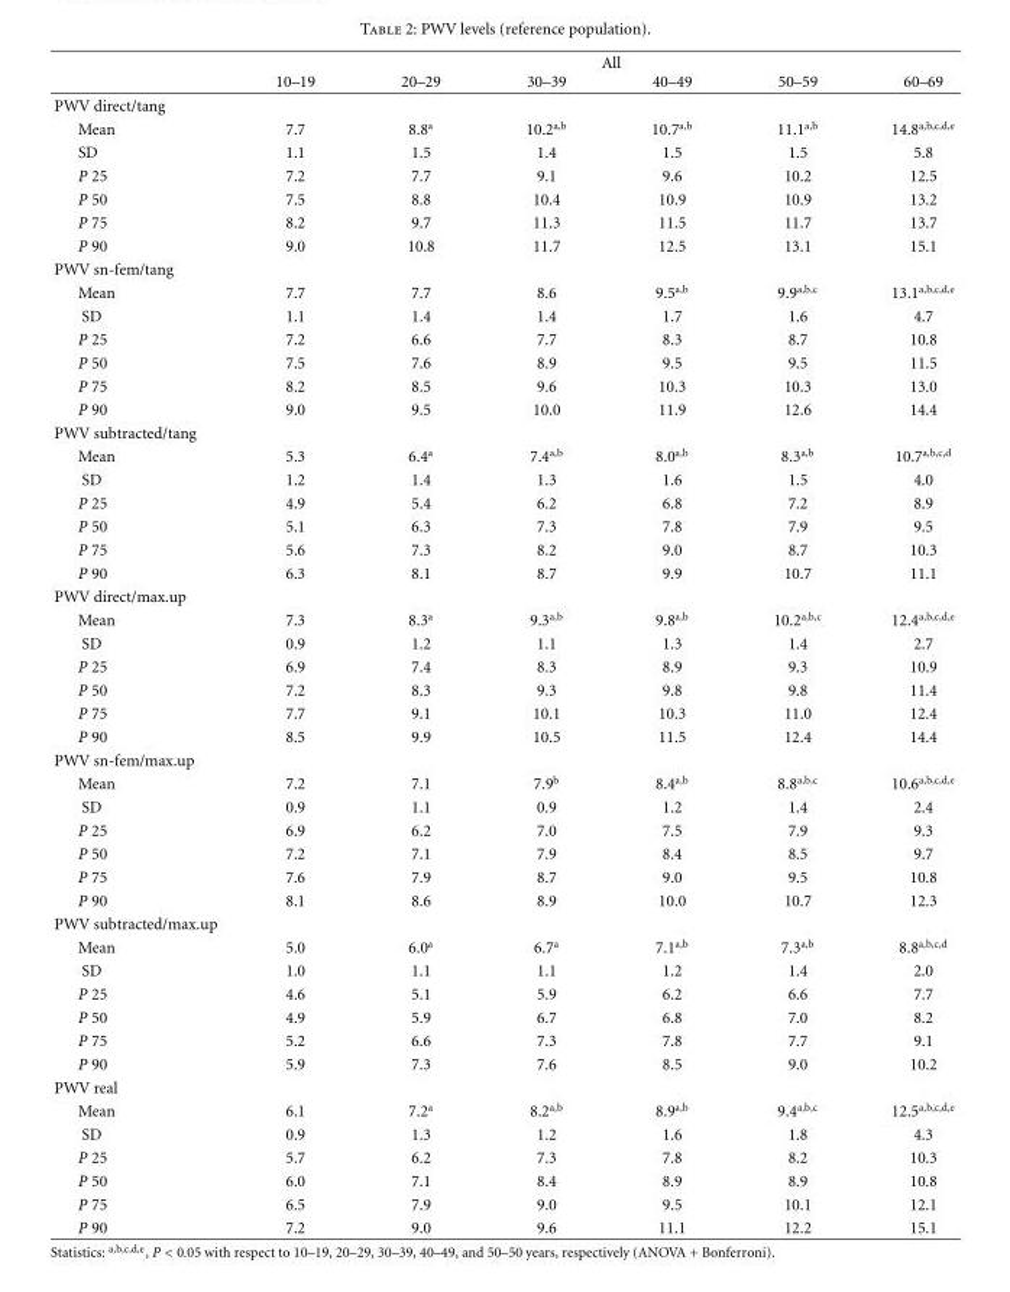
<table><thead><tr><td rowspan="2"></td><td colspan="6">All</td></tr><tr><td>10–19</td><td>20–29</td><td>30–39</td><td>40–49</td><td>50–59</td><td>60–69</td></tr></thead><tbody><tr><td colspan="7">PWV direct/tang</td></tr><tr><td>Mean</td><td>7.7</td><td>8.8<sup>a</sup></td><td>10.2<sup>a,b</sup></td><td>10.7<sup>a,b</sup></td><td>11.1<sup>a,b</sup></td><td>14.8<sup>a,b,c,d,e</sup></td></tr><tr><td>SD</td><td>1.1</td><td>1.5</td><td>1.4</td><td>1.5</td><td>1.5</td><td>5.8</td></tr><tr><td>P 25</td><td>7.2</td><td>7.7</td><td>9.1</td><td>9.6</td><td>10.2</td><td>12.5</td></tr><tr><td>P 50</td><td>7.5</td><td>8.8</td><td>10.4</td><td>10.9</td><td>10.9</td><td>13.2</td></tr><tr><td>P 75</td><td>8.2</td><td>9.7</td><td>11.3</td><td>11.5</td><td>11.7</td><td>13.7</td></tr><tr><td>P 90</td><td>9.0</td><td>10.8</td><td>11.7</td><td>12.5</td><td>13.1</td><td>15.1</td></tr><tr><td colspan="7">PWV sn-fem/tang</td></tr><tr><td>Mean</td><td>7.7</td><td>7.7</td><td>8.6</td><td>9.5<sup>a,b</sup></td><td>9.9<sup>a,b,c</sup></td><td>13.1<sup>a,b,c,d,e</sup></td></tr><tr><td>SD</td><td>1.1</td><td>1.4</td><td>1.4</td><td>1.7</td><td>1.6</td><td>4.7</td></tr><tr><td>P 25</td><td>7.2</td><td>6.6</td><td>7.7</td><td>8.3</td><td>8.7</td><td>10.8</td></tr><tr><td>P 50</td><td>7.5</td><td>7.6</td><td>8.9</td><td>9.5</td><td>9.5</td><td>11.5</td></tr><tr><td>P 75</td><td>8.2</td><td>8.5</td><td>9.6</td><td>10.3</td><td>10.3</td><td>13.0</td></tr><tr><td>P 90</td><td>9.0</td><td>9.5</td><td>10.0</td><td>11.9</td><td>12.6</td><td>14.4</td></tr><tr><td colspan="7">PWV subtracted/tang</td></tr><tr><td>Mean</td><td>5.3</td><td>6.4<sup>a</sup></td><td>7.4<sup>a,b</sup></td><td>8.0<sup>a,b</sup></td><td>8.3<sup>a,b</sup></td><td>10.7<sup>a,b,c,d</sup></td></tr><tr><td>SD</td><td>1.2</td><td>1.4</td><td>1.3</td><td>1.6</td><td>1.5</td><td>4.0</td></tr><tr><td>P 25</td><td>4.9</td><td>5.4</td><td>6.2</td><td>6.8</td><td>7.2</td><td>8.9</td></tr><tr><td>P 50</td><td>5.1</td><td>6.3</td><td>7.3</td><td>7.8</td><td>7.9</td><td>9.5</td></tr><tr><td>P 75</td><td>5.6</td><td>7.3</td><td>8.2</td><td>9.0</td><td>8.7</td><td>10.3</td></tr><tr><td>P 90</td><td>6.3</td><td>8.1</td><td>8.7</td><td>9.9</td><td>10.7</td><td>11.1</td></tr><tr><td colspan="7">PWV direct/max.up</td></tr><tr><td>Mean</td><td>7.3</td><td>8.3<sup>a</sup></td><td>9.3<sup>a,b</sup></td><td>9.8<sup>a,b</sup></td><td>10.2<sup>a,b,c</sup></td><td>12.4<sup>a,b,c,d,e</sup></td></tr><tr><td>SD</td><td>0.9</td><td>1.2</td><td>1.1</td><td>1.3</td><td>1.4</td><td>2.7</td></tr><tr><td>P 25</td><td>6.9</td><td>7.4</td><td>8.3</td><td>8.9</td><td>9.3</td><td>10.9</td></tr><tr><td>P 50</td><td>7.2</td><td>8.3</td><td>9.3</td><td>9.8</td><td>9.8</td><td>11.4</td></tr><tr><td>P 75</td><td>7.7</td><td>9.1</td><td>10.1</td><td>10.3</td><td>11.0</td><td>12.4</td></tr><tr><td>P 90</td><td>8.5</td><td>9.9</td><td>10.5</td><td>11.5</td><td>12.4</td><td>14.4</td></tr><tr><td colspan="7">PWV sn-fem/max.up</td></tr><tr><td>Mean</td><td>7.2</td><td>7.1</td><td>7.9<sup>b</sup></td><td>8.4<sup>a,b</sup></td><td>8.8<sup>a,b,c</sup></td><td>10.6<sup>a,b,c,d,e</sup></td></tr><tr><td>SD</td><td>0.9</td><td>1.1</td><td>0.9</td><td>1.2</td><td>1.4</td><td>2.4</td></tr><tr><td>P 25</td><td>6.9</td><td>6.2</td><td>7.0</td><td>7.5</td><td>7.9</td><td>9.3</td></tr><tr><td>P 50</td><td>7.2</td><td>7.1</td><td>7.9</td><td>8.4</td><td>8.5</td><td>9.7</td></tr><tr><td>P 75</td><td>7.6</td><td>7.9</td><td>8.7</td><td>9.0</td><td>9.5</td><td>10.8</td></tr><tr><td>P 90</td><td>8.1</td><td>8.6</td><td>8.9</td><td>10.0</td><td>10.7</td><td>12.3</td></tr><tr><td colspan="7">PWV subtracted/max.up</td></tr><tr><td>Mean</td><td>5.0</td><td>6.0<sup>a</sup></td><td>6.7<sup>a</sup></td><td>7.1<sup>a,b</sup></td><td>7.3<sup>a,b</sup></td><td>8.8<sup>a,b,c,d</sup></td></tr><tr><td>SD</td><td>1.0</td><td>1.1</td><td>1.1</td><td>1.2</td><td>1.4</td><td>2.0</td></tr><tr><td>P 25</td><td>4.6</td><td>5.1</td><td>5.9</td><td>6.2</td><td>6.6</td><td>7.7</td></tr><tr><td>P 50</td><td>4.9</td><td>5.9</td><td>6.7</td><td>6.8</td><td>7.0</td><td>8.2</td></tr><tr><td>P 75</td><td>5.2</td><td>6.6</td><td>7.3</td><td>7.8</td><td>7.7</td><td>9.1</td></tr><tr><td>P 90</td><td>5.9</td><td>7.3</td><td>7.6</td><td>8.5</td><td>9.0</td><td>10.2</td></tr><tr><td colspan="7">PWV real</td></tr><tr><td>Mean</td><td>6.1</td><td>7.2<sup>a</sup></td><td>8.2<sup>a,b</sup></td><td>8.9<sup>a,b</sup></td><td>9.4<sup>a,b,c</sup></td><td>12.5<sup>a,b,c,d,e</sup></td></tr><tr><td>SD</td><td>0.9</td><td>1.3</td><td>1.2</td><td>1.6</td><td>1.8</td><td>4.3</td></tr><tr><td>P 25</td><td>5.7</td><td>6.2</td><td>7.3</td><td>7.8</td><td>8.2</td><td>10.3</td></tr><tr><td>P 50</td><td>6.0</td><td>7.1</td><td>8.4</td><td>8.9</td><td>8.9</td><td>10.8</td></tr><tr><td>P 75</td><td>6.5</td><td>7.9</td><td>9.0</td><td>9.5</td><td>10.1</td><td>12.1</td></tr><tr><td>P 90</td><td>7.2</td><td>9.0</td><td>9.6</td><td>11.1</td><td>12.2</td><td>15.1</td></tr></tbody></table>